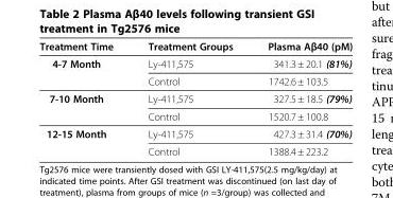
<table><thead><tr><td>Treatment Time</td><td>Treatment Groups</td><td>Plasma Aβ40 (pM)</td></tr></thead><tbody><tr><td rowspan="2">4-7 Month</td><td>Ly-411,575</td><td>341.3 ± 20.1 (81%)</td></tr><tr><td>Control</td><td>1742.6 ± 103.5</td></tr><tr><td rowspan="2">7-10 Month</td><td>Ly-411,575</td><td>327.5 ± 18.5 (79%)</td></tr><tr><td>Control</td><td>1520.7 ± 100.8</td></tr><tr><td rowspan="2">12-15 Month</td><td>Ly-411,575</td><td>427.3 ± 31.4 (70%)</td></tr><tr><td>Control</td><td>1388.4 ± 223.2</td></tr></tbody></table>